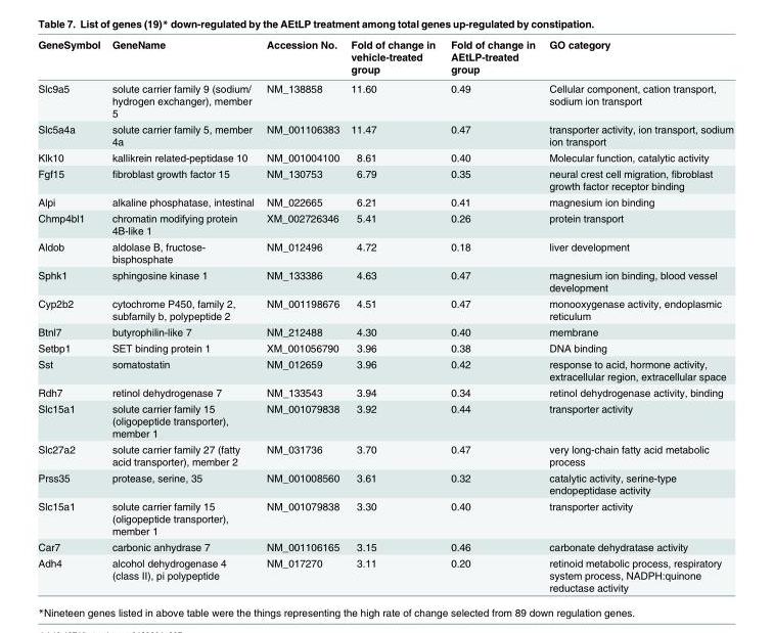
<table><thead><tr><td>GeneSymbol</td><td>GeneName</td><td>Accession No.</td><td>Fold of change in vehicle-treated group</td><td>Fold of change in AEtLP-treated group</td><td>GO category</td></tr></thead><tbody><tr><td>Slc9a5</td><td>solute carrier family 9 (sodium/ hydrogen exchanger), member 5</td><td>NM_138858</td><td>11.60</td><td>0.49</td><td>Cellular component, cation transport, sodium ion transport</td></tr><tr><td>Slc5a4a</td><td>solute carrier family 5, member 4a</td><td>NM_001106383</td><td>11.47</td><td>0.47</td><td>transporter activity, ion transport, sodium ion transport</td></tr><tr><td>Klk10</td><td>kallikrein related-peptidase 10</td><td>NM_001004100</td><td>8.61</td><td>0.40</td><td>Molecular function, catalytic activity</td></tr><tr><td>Fgf15</td><td>fibroblast growth factor 15</td><td>NM_130753</td><td>6.79</td><td>0.35</td><td>neural crest cell migration, fibroblast growth factor receptor binding</td></tr><tr><td>Alpi</td><td>alkaline phosphatase, intestinal</td><td>NM_022665</td><td>6.21</td><td>0.41</td><td>magnesium ion binding</td></tr><tr><td>Chmp4bl1</td><td>chromatin modifying protein 4B-like 1</td><td>XM_002726346</td><td>5.41</td><td>0.26</td><td>protein transport</td></tr><tr><td>Aldob</td><td>aldolase B, fructose- bisphosphate</td><td>NM_012496</td><td>4.72</td><td>0.18</td><td>liver development</td></tr><tr><td>Sphk1</td><td>sphingosine kinase 1</td><td>NM_133386</td><td>4.63</td><td>0.47</td><td>magnesium ion binding, blood vessel development</td></tr><tr><td>Cyp2b2</td><td>cytochrome P450, family 2, subfamily b, polypeptide 2</td><td>NM_001198676</td><td>4.51</td><td>0.47</td><td>monooxygenase activity, endoplasmic reticulum</td></tr><tr><td>Btnl7</td><td>butyrophilin-like 7</td><td>NM_212488</td><td>4.30</td><td>0.40</td><td>membrane</td></tr><tr><td>Setbp1</td><td>SET binding protein 1</td><td>XM_001056790</td><td>3.96</td><td>0.38</td><td>DNA binding</td></tr><tr><td>Sst</td><td>somatostatin</td><td>NM_012659</td><td>3.96</td><td>0.42</td><td>response to acid, hormone activity, extracellular region, extracellular space</td></tr><tr><td>Rdh7</td><td>retinol dehydrogenase 7</td><td>NM_133543</td><td>3.94</td><td>0.34</td><td>retinol dehydrogenase activity, binding</td></tr><tr><td>Slc15a1</td><td>solute carrier family 15 (oligopeptide transporter), member 1</td><td>NM_001079838</td><td>3.92</td><td>0.44</td><td>transporter activity</td></tr><tr><td>Slc27a2</td><td>solute carrier family 27 (fatty acid transporter), member 2</td><td>NM_031736</td><td>3.70</td><td>0.47</td><td>very long-chain fatty acid metabolic process</td></tr><tr><td>Prss35</td><td>protease, serine, 35</td><td>NM_001008560</td><td>3.61</td><td>0.32</td><td>catalytic activity, serine-type endopeptidase activity</td></tr><tr><td>Slc15a1</td><td>solute carrier family 15 (oligopeptide transporter), member 1</td><td>NM_001079838</td><td>3.30</td><td>0.40</td><td>transporter activity</td></tr><tr><td>Car7</td><td>carbonic anhydrase 7</td><td>NM_001106165</td><td>3.15</td><td>0.46</td><td>carbonate dehydratase activity</td></tr><tr><td>Adh4</td><td>alcohol dehydrogenase 4 (class II), pi polypeptide</td><td>NM_017270</td><td>3.11</td><td>0.20</td><td>retinoid metabolic process, respiratory system process, NADPH:quinone reductase activity</td></tr></tbody></table>